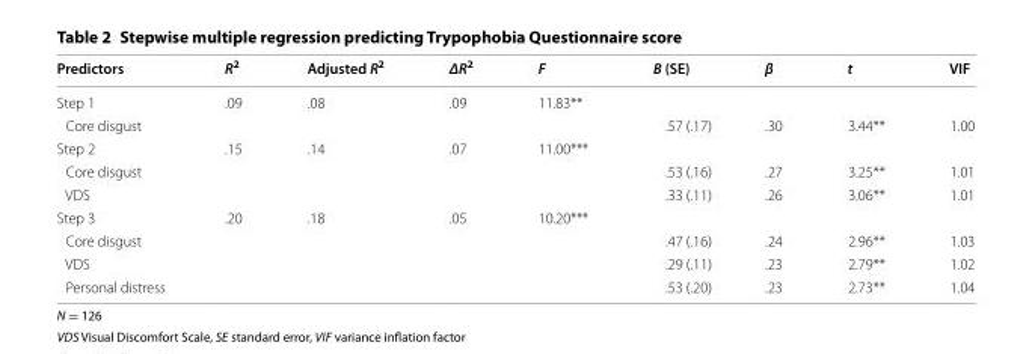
<table><thead><tr><td>Predictors</td><td>R<sup>2</sup></td><td>Adjusted R<sup>2</sup></td><td>ΔR<sup>2</sup></td><td>F</td><td>B (SE)</td><td>β</td><td>t</td><td>VIF</td></tr></thead><tbody><tr><td>Step 1</td><td>.09</td><td>.08</td><td>.09</td><td>11.83**</td><td></td><td></td><td></td><td></td></tr><tr><td>Core disgust</td><td></td><td></td><td></td><td></td><td>.57 (.17)</td><td>.30</td><td>3.44**</td><td>1.00</td></tr><tr><td>Step 2</td><td>.15</td><td>.14</td><td>.07</td><td>11.00***</td><td></td><td></td><td></td><td></td></tr><tr><td>Core disgust</td><td></td><td></td><td></td><td></td><td>.53 (.16)</td><td>.27</td><td>3.25**</td><td>1.01</td></tr><tr><td>VDS</td><td></td><td></td><td></td><td></td><td>.33 (.11)</td><td>.26</td><td>3.06**</td><td>1.01</td></tr><tr><td>Step 3</td><td>.20</td><td>.18</td><td>.05</td><td>10.20***</td><td></td><td></td><td></td><td></td></tr><tr><td>Core disgust</td><td></td><td></td><td></td><td></td><td>.47 (.16)</td><td>.24</td><td>2.96**</td><td>1.03</td></tr><tr><td>VDS</td><td></td><td></td><td></td><td></td><td>.29 (.11)</td><td>.23</td><td>2.79**</td><td>1.02</td></tr><tr><td>Personal distress</td><td></td><td></td><td></td><td></td><td>.53 (.20)</td><td>.23</td><td>2.73**</td><td>1.04</td></tr></tbody></table>